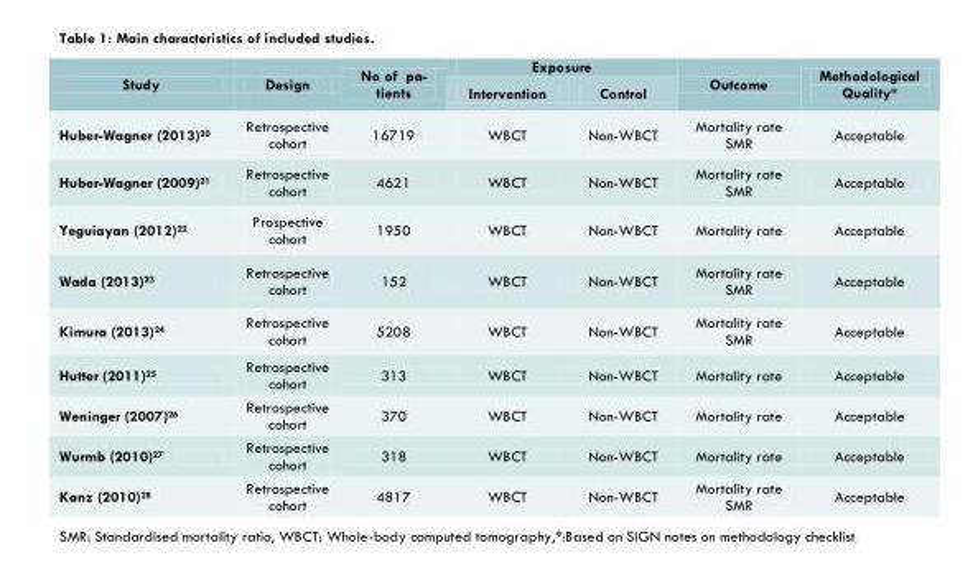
<table><thead><tr><td rowspan="2">Study</td><td rowspan="2">Design</td><td rowspan="2">No of pa- tients</td><td colspan="2">Exposure</td><td rowspan="2">Outcome</td><td rowspan="2">Methodological Quality*</td></tr><tr><td>Intervention</td><td>Control</td></tr></thead><tbody><tr><td>Huber-Wagner (2013)<sup>20</sup></td><td>Retrospective cohort</td><td>16719</td><td>WBCT</td><td>Non-WBCT</td><td>Mortality rate SMR</td><td>Acceptable</td></tr><tr><td>Huber-Wagner (2009)<sup>21</sup></td><td>Retrospective cohort</td><td>4621</td><td>WBCT</td><td>Non-WBCT</td><td>Mortality rate SMR</td><td>Acceptable</td></tr><tr><td>Yeguiayan (2012)<sup>22</sup></td><td>Prospective cohort</td><td>1950</td><td>WBCT</td><td>Non-WBCT</td><td>Mortality rate</td><td>Acceptable</td></tr><tr><td>Wada (2013)<sup>23</sup></td><td>Retrospective cohort</td><td>152</td><td>WBCT</td><td>Non-WBCT</td><td>Mortality rate SMR</td><td>Acceptable</td></tr><tr><td>Kimura (2013)<sup>24</sup></td><td>Retrospective cohort</td><td>5208</td><td>WBCT</td><td>Non-WBCT</td><td>Mortality rate SMR</td><td>Acceptable</td></tr><tr><td>Hutter (2011)<sup>25</sup></td><td>Retrospective cohort</td><td>313</td><td>WBCT</td><td>Non-WBCT</td><td>Mortality rate</td><td>Acceptable</td></tr><tr><td>Weninger (2007)<sup>26</sup></td><td>Retrospective cohort</td><td>370</td><td>WBCT</td><td>Non-WBCT</td><td>Mortality rate</td><td>Acceptable</td></tr><tr><td>Wurmb (2010)<sup>27</sup></td><td>Retrospective cohort</td><td>318</td><td>WBCT</td><td>Non-WBCT</td><td>Mortality rate</td><td>Acceptable</td></tr><tr><td>Kanz (2010)<sup>28</sup></td><td>Retrospective cohort</td><td>4817</td><td>WBCT</td><td>Non-WBCT</td><td>Mortality rate SMR</td><td>Acceptable</td></tr></tbody></table>